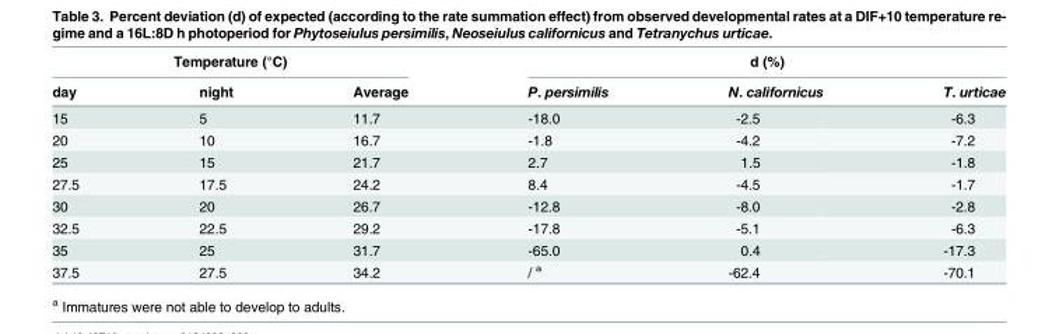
<table><thead><tr><td colspan="3">Temperature (°C)</td><td colspan="3">d (%)</td></tr><tr><td>day</td><td>night</td><td>Average</td><td>P. persimilis</td><td>N. californicus</td><td>T. urticae</td></tr></thead><tbody><tr><td>15</td><td>5</td><td>11.7</td><td>-18.0</td><td>-2.5</td><td>-6.3</td></tr><tr><td>20</td><td>10</td><td>16.7</td><td>-1.8</td><td>-4.2</td><td>-7.2</td></tr><tr><td>25</td><td>15</td><td>21.7</td><td>2.7</td><td>1.5</td><td>-1.8</td></tr><tr><td>27.5</td><td>17.5</td><td>24.2</td><td>8.4</td><td>-4.5</td><td>-1.7</td></tr><tr><td>30</td><td>20</td><td>26.7</td><td>-12.8</td><td>-8.0</td><td>-2.8</td></tr><tr><td>32.5</td><td>22.5</td><td>29.2</td><td>-17.8</td><td>-5.1</td><td>-6.3</td></tr><tr><td>35</td><td>25</td><td>31.7</td><td>-65.0</td><td>0.4</td><td>-17.3</td></tr><tr><td>37.5</td><td>27.5</td><td>34.2</td><td>/ <sup>a</sup></td><td>-62.4</td><td>-70.1</td></tr></tbody></table>